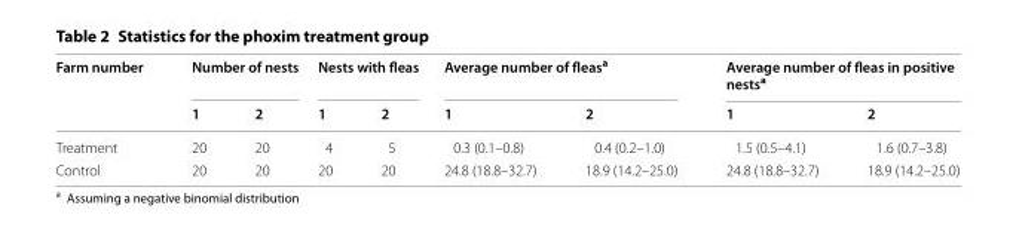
<table><thead><tr><td rowspan="2">Farm number</td><td colspan="2">Number of nests</td><td colspan="2">Nests with fleas</td><td colspan="2">Average number of fleas<sup>a</sup></td><td colspan="2">Average number of fleas in positive nests<sup>a</sup></td></tr><tr><td>1</td><td>2</td><td>1</td><td>2</td><td>1</td><td>2</td><td>1</td><td>2</td></tr></thead><tbody><tr><td>Treatment</td><td>20</td><td>20</td><td>4</td><td>5</td><td>0.3 (0.1–0.8)</td><td>0.4 (0.2–1.0)</td><td>1.5 (0.5–4.1)</td><td>1.6 (0.7–3.8)</td></tr><tr><td>Control</td><td>20</td><td>20</td><td>20</td><td>20</td><td>24.8 (18.8–32.7)</td><td>18.9 (14.2–25.0)</td><td>24.8 (18.8–32.7)</td><td>18.9 (14.2–25.0)</td></tr></tbody></table>